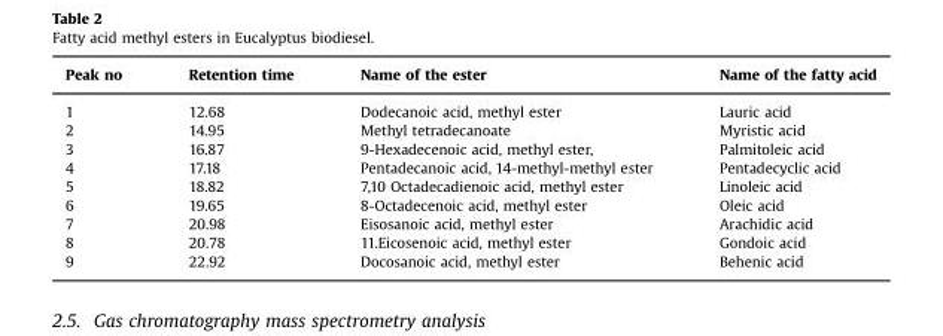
<table><thead><tr><td>Peak no</td><td>Retention time</td><td>Name of the ester</td><td>Name of the fatty acid</td></tr></thead><tbody><tr><td>1</td><td>12.68</td><td>Dodecanoic acid, methyl ester</td><td>Lauric acid</td></tr><tr><td>2</td><td>14.95</td><td>Methyl tetradecanoate</td><td>Myristic acid</td></tr><tr><td>3</td><td>16.87</td><td>9-Hexadecenoic acid, methyl ester,</td><td>Palmitoleic acid</td></tr><tr><td>4</td><td>17.18</td><td>Pentadecanoic acid, 14-methyl-methyl ester</td><td>Pentadecyclic acid</td></tr><tr><td>5</td><td>18.82</td><td>7,10 Octadecadienoic acid, methyl ester</td><td>Linoleic acid</td></tr><tr><td>6</td><td>19.65</td><td>8-Octadecenoic acid, methyl ester</td><td>Oleic acid</td></tr><tr><td>7</td><td>20.98</td><td>Eisosanoic acid, methyl ester</td><td>Arachidic acid</td></tr><tr><td>8</td><td>20.78</td><td>11.Eicosenoic acid, methyl ester</td><td>Gondoic acid</td></tr><tr><td>9</td><td>22.92</td><td>Docosanoic acid, methyl ester</td><td>Behenic acid</td></tr></tbody></table>